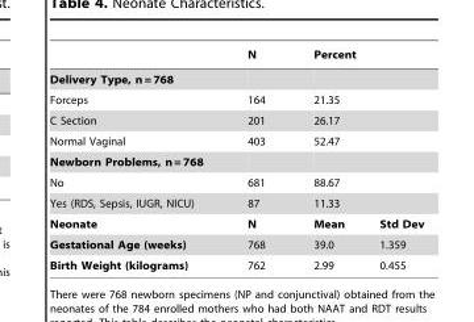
<table><thead><tr><td></td><td>N</td><td colspan="2">Percent</td></tr></thead><tbody><tr><td colspan="4">Delivery Type, n = 768</td></tr><tr><td>Forceps</td><td>164</td><td colspan="2">21.35</td></tr><tr><td>C Section</td><td>201</td><td colspan="2">26.17</td></tr><tr><td>Normal Vaginal</td><td>403</td><td colspan="2">52.47</td></tr><tr><td colspan="4">Newborn Problems, n = 768</td></tr><tr><td>No</td><td>681</td><td colspan="2">88.67</td></tr><tr><td>Yes (RDS, Sepsis, IUGR, NICU)</td><td>87</td><td colspan="2">11.33</td></tr><tr><td>Neonate</td><td>N</td><td>Mean</td><td>Std Dev</td></tr><tr><td>Gestational Age (weeks)</td><td>768</td><td>39.0</td><td>1.359</td></tr><tr><td>Birth Weight (kilograms)</td><td>762</td><td>2.99</td><td>0.455</td></tr></tbody></table>